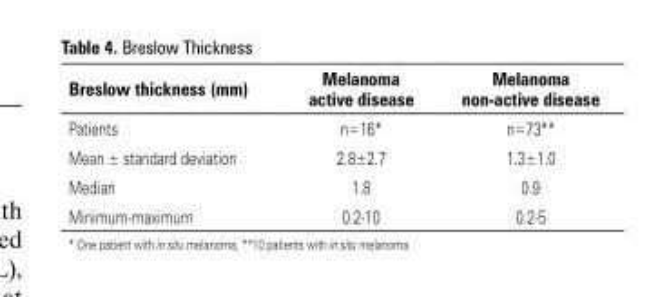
<table><thead><tr><td>Breslow thickness (mm)</td><td>Melanoma active disease</td><td>Melanoma non-active disease</td></tr></thead><tbody><tr><td>Patients</td><td>n=16*</td><td>n=73**</td></tr><tr><td>Mean ± standard deviation</td><td>2.8±2.7</td><td>1.3±1.0</td></tr><tr><td>Median</td><td>1.8</td><td>0.9</td></tr><tr><td>Minimum-maximum</td><td>0.2-10</td><td>0.2-5</td></tr></tbody></table>